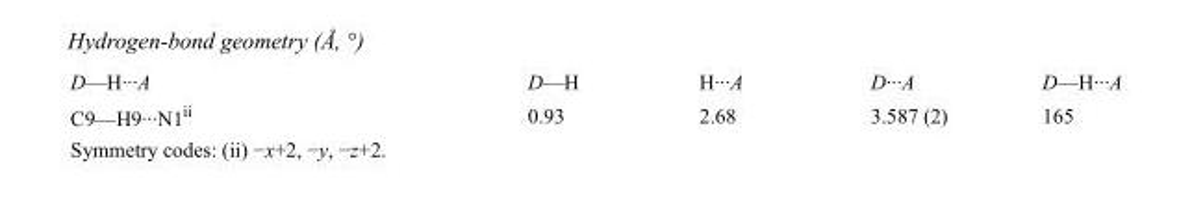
<table><tbody><tr><td>D—H···A</td><td>D—H</td><td>H···A</td><td>D···A</td><td>D—H···A</td></tr><tr><td>C9—H9···N1<sup>ii</sup></td><td>0.93</td><td>2.68</td><td>3.587 (2)</td><td>165</td></tr></tbody></table>